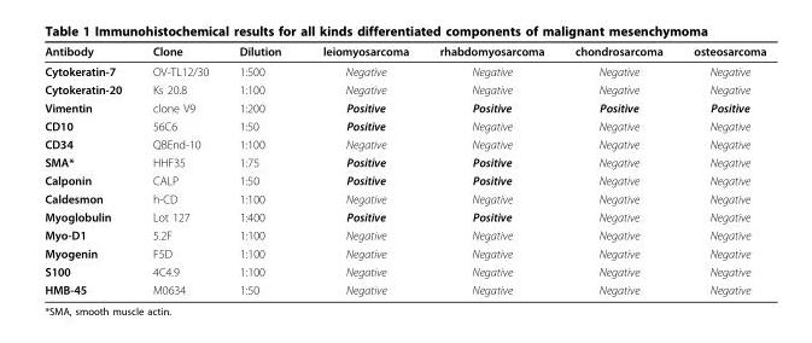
<table><thead><tr><td>Antibody</td><td>Clone</td><td>Dilution</td><td>leiomyosarcoma</td><td>rhabdomyosarcoma</td><td>chondrosarcoma</td><td>osteosarcoma</td></tr></thead><tbody><tr><td>Cytokeratin-7</td><td>OV-TL12/30</td><td>1:500</td><td>Negative</td><td>Negative</td><td>Negative</td><td>Negative</td></tr><tr><td>Cytokeratin-20</td><td>Ks 20.8</td><td>1:100</td><td>Negative</td><td>Negative</td><td>Negative</td><td>Negative</td></tr><tr><td>Vimentin</td><td>clone V9</td><td>1:200</td><td>Positive</td><td>Positive</td><td>Positive</td><td>Positive</td></tr><tr><td>CD10</td><td>56C6</td><td>1:50</td><td>Positive</td><td>Negative</td><td>Negative</td><td>Negative</td></tr><tr><td>CD34</td><td>QBEnd-10</td><td>1:100</td><td>Negative</td><td>Negative</td><td>Negative</td><td>Negative</td></tr><tr><td>SMA*</td><td>HHF35</td><td>1:75</td><td>Positive</td><td>Positive</td><td>Negative</td><td>Negative</td></tr><tr><td>Calponin</td><td>CALP</td><td>1:50</td><td>Positive</td><td>Positive</td><td>Negative</td><td>Negative</td></tr><tr><td>Caldesmon</td><td>h-CD</td><td>1:100</td><td>Negative</td><td>Negative</td><td>Negative</td><td>Negative</td></tr><tr><td>Myoglobulin</td><td>Lot 127</td><td>1:400</td><td>Positive</td><td>Positive</td><td>Negative</td><td>Negative</td></tr><tr><td>Myo-D1</td><td>5.2F</td><td>1:100</td><td>Negative</td><td>Negative</td><td>Negative</td><td>Negative</td></tr><tr><td>Myogenin</td><td>F5D</td><td>1:100</td><td>Negative</td><td>Negative</td><td>Negative</td><td>Negative</td></tr><tr><td>S100</td><td>4C4.9</td><td>1:100</td><td>Negative</td><td>Negative</td><td>Negative</td><td>Negative</td></tr><tr><td>HMB-45</td><td>M0634</td><td>1:50</td><td>Negative</td><td>Negative</td><td>Negative</td><td>Negative</td></tr></tbody></table>